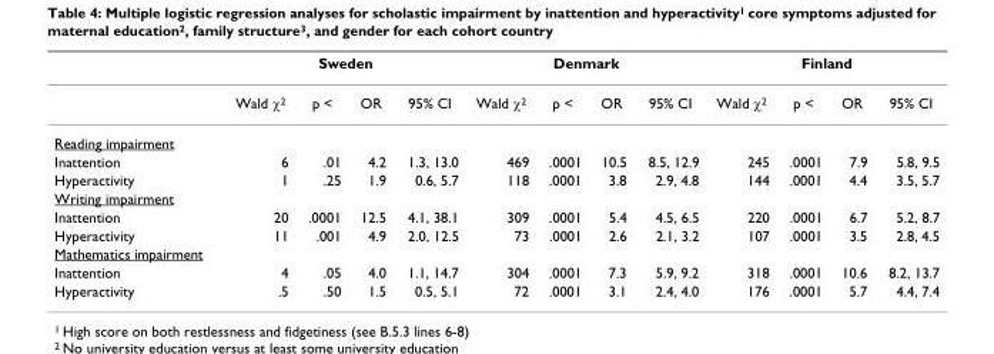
<table><thead><tr><td rowspan="2"></td><td colspan="4">Sweden</td><td colspan="4">Denmark</td><td colspan="4">Finland</td></tr><tr><td>Wald χ<sup>2</sup></td><td>p &lt;</td><td>OR</td><td>95% CI</td><td>Wald χ<sup>2</sup></td><td>p &lt;</td><td>OR</td><td>95% CI</td><td>Wald χ<sup>2</sup></td><td>p &lt;</td><td>OR</td><td>95% CI</td></tr></thead><tbody><tr><td colspan="13">Reading impairment</td></tr><tr><td>Inattention</td><td>6</td><td>.01</td><td>4.2</td><td>1.3, 13.0</td><td>469</td><td>.0001</td><td>10.5</td><td>8.5, 12.9</td><td>245</td><td>.0001</td><td>7.9</td><td>5.8, 9.5</td></tr><tr><td>Hyperactivity</td><td>1</td><td>.25</td><td>1.9</td><td>0.6, 5.7</td><td>118</td><td>.0001</td><td>3.8</td><td>2.9, 4.8</td><td>144</td><td>.0001</td><td>4.4</td><td>3.5, 5.7</td></tr><tr><td colspan="13">Writing impairment</td></tr><tr><td>Inattention</td><td>20</td><td>.0001</td><td>12.5</td><td>4.1, 38.1</td><td>309</td><td>.0001</td><td>5.4</td><td>4.5, 6.5</td><td>220</td><td>.0001</td><td>6.7</td><td>5.2, 8.7</td></tr><tr><td>Hyperactivity</td><td>11</td><td>.001</td><td>4.9</td><td>2.0, 12.5</td><td>73</td><td>.0001</td><td>2.6</td><td>2.1, 3.2</td><td>107</td><td>.0001</td><td>3.5</td><td>2.8, 4.5</td></tr><tr><td colspan="13">Mathematics impairment</td></tr><tr><td>Inattention</td><td>4</td><td>.05</td><td>4.0</td><td>1.1, 14.7</td><td>304</td><td>.0001</td><td>7.3</td><td>5.9, 9.2</td><td>318</td><td>.0001</td><td>10.6</td><td>8.2, 13.7</td></tr><tr><td>Hyperactivity</td><td>.5</td><td>.50</td><td>1.5</td><td>0.5, 5.1</td><td>72</td><td>.0001</td><td>3.1</td><td>2.4, 4.0</td><td>176</td><td>.0001</td><td>5.7</td><td>4.4, 7.4</td></tr></tbody></table>